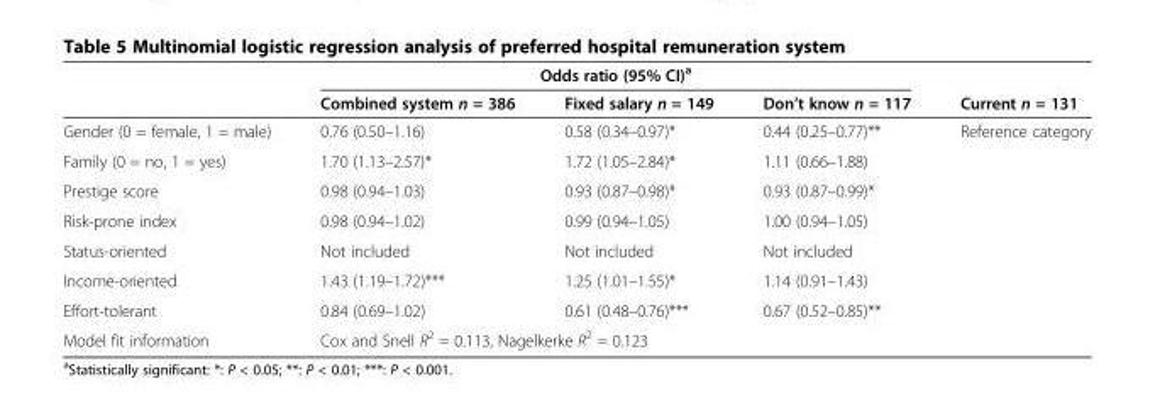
<table><thead><tr><td rowspan="2"></td><td colspan="3">Odds ratio (95% CI)<sup>a</sup></td><td rowspan="2">Current n = 131</td></tr><tr><td>Combined system n = 386</td><td>Fixed salary n = 149</td><td>Don’t know n = 117</td></tr></thead><tbody><tr><td>Gender (0 = female, 1 = male)</td><td>0.76 (0.50–1.16)</td><td>0.58 (0.34–0.97)*</td><td>0.44 (0.25–0.77)**</td><td rowspan="7">Reference category</td></tr><tr><td>Family (0 = no, 1 = yes)</td><td>1.70 (1.13–2.57)*</td><td>1.72 (1.05–2.84)*</td><td>1.11 (0.66–1.88)</td></tr><tr><td>Prestige score</td><td>0.98 (0.94–1.03)</td><td>0.93 (0.87–0.98)*</td><td>0.93 (0.87–0.99)*</td></tr><tr><td>Risk-prone index</td><td>0.98 (0.94–1.02)</td><td>0.99 (0.94–1.05)</td><td>1.00 (0.94–1.05)</td></tr><tr><td>Status-oriented</td><td>Not included</td><td>Not included</td><td>Not included</td></tr><tr><td>Income-oriented</td><td>1.43 (1.19–1.72)***</td><td>1.25 (1.01–1.55)*</td><td>1.14 (0.91–1.43)</td></tr><tr><td>Effort-tolerant</td><td>0.84 (0.69–1.02)</td><td>0.61 (0.48–0.76)***</td><td>0.67 (0.52–0.85)**</td></tr><tr><td>Model fit information</td><td colspan="4">Cox and Snell R<sup>2</sup> = 0.113, Nagelkerke R<sup>2</sup> = 0.123</td></tr></tbody></table>